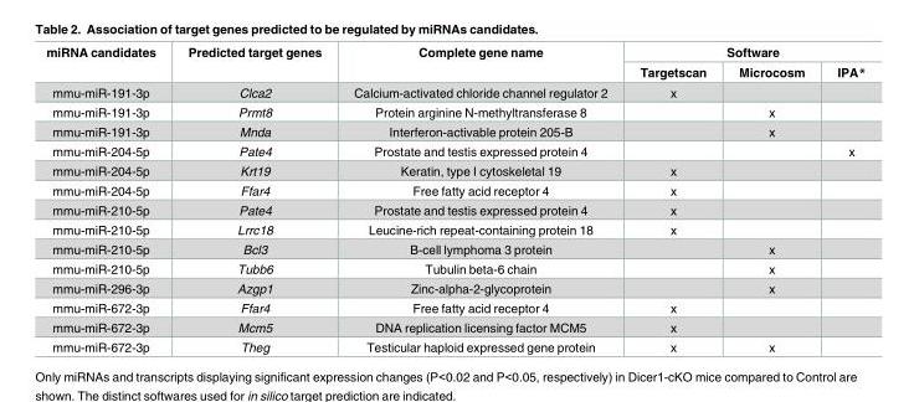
<table><thead><tr><td rowspan="2">miRNA candidates</td><td rowspan="2">Predicted target genes</td><td rowspan="2">Complete gene name</td><td colspan="3">Software</td></tr><tr><td>Targetscan</td><td>Microcosm</td><td>IPA*</td></tr></thead><tbody><tr><td>mmu-miR-191-3p</td><td>Clca2</td><td>Calcium-activated chloride channel regulator 2</td><td>x</td><td></td><td></td></tr><tr><td>mmu-miR-191-3p</td><td>Prmt8</td><td>Protein arginine N-methyltransferase 8</td><td></td><td>x</td><td></td></tr><tr><td>mmu-miR-191-3p</td><td>Mnda</td><td>Interferon-activable protein 205-B</td><td></td><td>x</td><td></td></tr><tr><td>mmu-miR-204-5p</td><td>Pate4</td><td>Prostate and testis expressed protein 4</td><td></td><td></td><td>x</td></tr><tr><td>mmu-miR-204-5p</td><td>Krt19</td><td>Keratin, type I cytoskeletal 19</td><td>x</td><td></td><td></td></tr><tr><td>mmu-miR-204-5p</td><td>Ffar4</td><td>Free fatty acid receptor 4</td><td>x</td><td></td><td></td></tr><tr><td>mmu-miR-210-5p</td><td>Pate4</td><td>Prostate and testis expressed protein 4</td><td>x</td><td></td><td></td></tr><tr><td>mmu-miR-210-5p</td><td>Lrrc18</td><td>Leucine-rich repeat-containing protein 18</td><td>x</td><td></td><td></td></tr><tr><td>mmu-miR-210-5p</td><td>Bcl3</td><td>B-cell lymphoma 3 protein</td><td></td><td>x</td><td></td></tr><tr><td>mmu-miR-210-5p</td><td>Tubb6</td><td>Tubulin beta-6 chain</td><td></td><td>x</td><td></td></tr><tr><td>mmu-miR-296-3p</td><td>Azgp1</td><td>Zinc-alpha-2-glycoprotein</td><td></td><td>x</td><td></td></tr><tr><td>mmu-miR-672-3p</td><td>Ffar4</td><td>Free fatty acid receptor 4</td><td>x</td><td></td><td></td></tr><tr><td>mmu-miR-672-3p</td><td>Mcm5</td><td>DNA replication licensing factor MCM5</td><td>x</td><td></td><td></td></tr><tr><td>mmu-miR-672-3p</td><td>Theg</td><td>Testicular haploid expressed gene protein</td><td>x</td><td>x</td><td></td></tr></tbody></table>